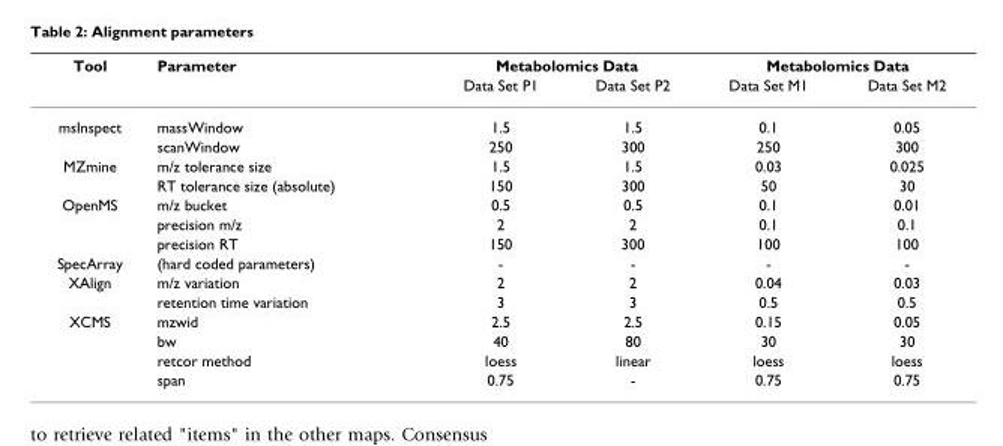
<table><thead><tr><td rowspan="2">Tool</td><td rowspan="2">Parameter</td><td colspan="2">Metabolomics Data</td><td colspan="2">Metabolomics Data</td></tr><tr><td>Data Set P1</td><td>Data Set P2</td><td>Data Set M1</td><td>Data Set M2</td></tr></thead><tbody><tr><td rowspan="2">msInspect</td><td>massWindow</td><td>1.5</td><td>1.5</td><td>0.1</td><td>0.05</td></tr><tr><td>scanWindow</td><td>250</td><td>300</td><td>250</td><td>300</td></tr><tr><td rowspan="2">MZmine</td><td>m/z tolerance size</td><td>1.5</td><td>1.5</td><td>0.03</td><td>0.025</td></tr><tr><td>RT tolerance size (absolute)</td><td>150</td><td>300</td><td>50</td><td>30</td></tr><tr><td rowspan="3">OpenMS</td><td>m/z bucket</td><td>0.5</td><td>0.5</td><td>0.1</td><td>0.01</td></tr><tr><td>precision m/z</td><td>2</td><td>2</td><td>0.1</td><td>0.1</td></tr><tr><td>precision RT</td><td>150</td><td>300</td><td>100</td><td>100</td></tr><tr><td>SpecArray</td><td>(hard coded parameters)</td><td>-</td><td>-</td><td>-</td><td>-</td></tr><tr><td rowspan="2">XAlign</td><td>m/z variation</td><td>2</td><td>2</td><td>0.04</td><td>0.03</td></tr><tr><td>retention time variation</td><td>3</td><td>3</td><td>0.5</td><td>0.5</td></tr><tr><td rowspan="4">XCMS</td><td>mzwid</td><td>2.5</td><td>2.5</td><td>0.15</td><td>0.05</td></tr><tr><td>bw</td><td>40</td><td>80</td><td>30</td><td>30</td></tr><tr><td>retcor method</td><td>loess</td><td>linear</td><td>loess</td><td>loess</td></tr><tr><td>span</td><td>0.75</td><td>-</td><td>0.75</td><td>0.75</td></tr></tbody></table>